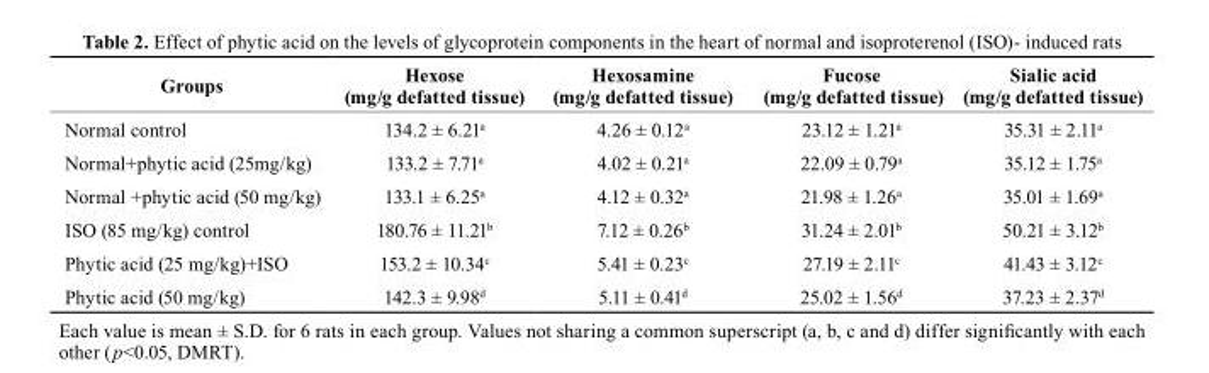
<table><thead><tr><td>Groups</td><td>Hexose (mg/g defatted tissue)</td><td>Hexosamine (mg/g defatted tissue)</td><td>Fucose (mg/g defatted tissue)</td><td>sialic acid (mg/g defatted tissue)</td></tr></thead><tbody><tr><td>Normal control</td><td>134.2 ± 6.21<sup>a</sup></td><td>4.26 ± 0.12<sup>a</sup></td><td>23.12 ± 1.21<sup>a</sup></td><td>35.31 ± 2.11<sup>a</sup></td></tr><tr><td>Normal+phytic acid (25mg/kg)</td><td>133.2 ± 7.71<sup>a</sup></td><td>4.02 ± 0.21<sup>a</sup></td><td>22.09 ± 0.79<sup>a</sup></td><td>35.12 ± 1.75<sup>a</sup></td></tr><tr><td>Normal +phytic acid (50 mg/kg)</td><td>133.1 ± 6.25<sup>a</sup></td><td>4.12 ± 0.32<sup>a</sup></td><td>21.98 ± 1.26<sup>a</sup></td><td>35.01 ± 1.69<sup>a</sup></td></tr><tr><td>ISO (85 mg/kg) control</td><td>180.76 ± 11.21<sup>b</sup></td><td>7.12 ± 0.26<sup>b</sup></td><td>31.24 ± 2.01<sup>b</sup></td><td>50.21 ± 3.12<sup>b</sup></td></tr><tr><td>Phytic acid (25 mg/kg)+ISO</td><td>153.2 ± 10.34<sup>c</sup></td><td>5.41 ± 0.23<sup>c</sup></td><td>27.19 ± 2.11<sup>c</sup></td><td>41.43 ± 3.12<sup>c</sup></td></tr><tr><td>Phytic acid (50 mg/kg)</td><td>142.3 ± 9.98<sup>d</sup></td><td>5.11 ± 0.41<sup>d</sup></td><td>25.02 ± 1.56<sup>d</sup></td><td>37.23 ± 2.37<sup>d</sup></td></tr></tbody></table>